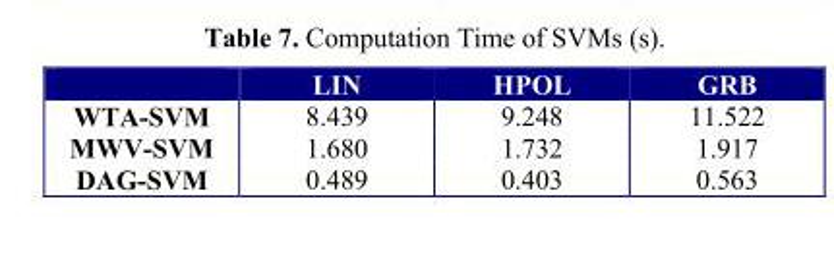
<table><thead><tr><td></td><td>LIN</td><td>HPOL</td><td>GRB</td></tr></thead><tbody><tr><td>WTA-SVM</td><td>8.439</td><td>9.248</td><td>11.522</td></tr><tr><td>MWV-SVM</td><td>1.680</td><td>1.732</td><td>1.917</td></tr><tr><td>DAG-SVM</td><td>0.489</td><td>0.403</td><td>0.563</td></tr></tbody></table>